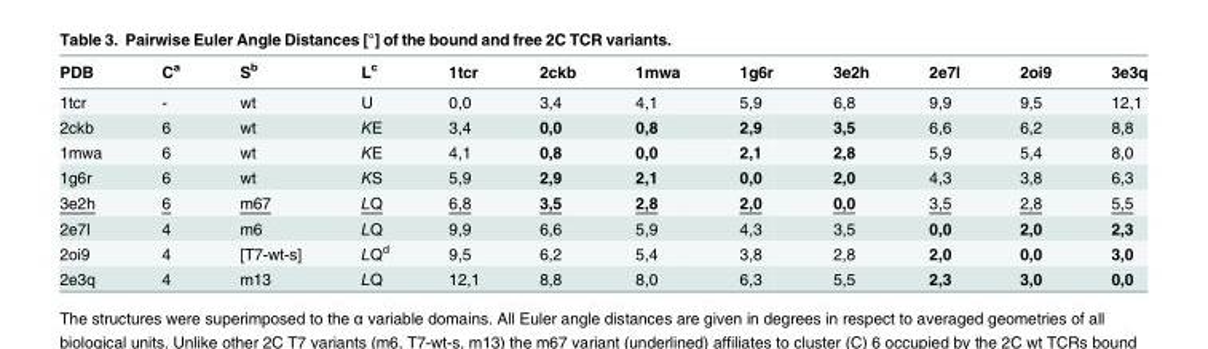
<table><thead><tr><td>PDB</td><td>C<sup>a</sup></td><td>S<sup>b</sup></td><td>L<sup>c</sup></td><td>1tcr</td><td>2ckb</td><td>1mwa</td><td>1g6r</td><td>3e2h</td><td>2e7l</td><td>2oi9</td><td>3e3q</td></tr></thead><tbody><tr><td>1tcr</td><td>-</td><td>wt</td><td>U</td><td>0,0</td><td>3,4</td><td>4,1</td><td>5,9</td><td>6,8</td><td>9,9</td><td>9,5</td><td>12,1</td></tr><tr><td>2ckb</td><td>6</td><td>wt</td><td>KE</td><td>3,4</td><td>0,0</td><td>0,8</td><td>2,9</td><td>3,5</td><td>6,6</td><td>6,2</td><td>8,8</td></tr><tr><td>1mwa</td><td>6</td><td>wt</td><td>KE</td><td>4,1</td><td>0,8</td><td>0,0</td><td>2,1</td><td>2,8</td><td>5,9</td><td>5,4</td><td>8,0</td></tr><tr><td>1g6r</td><td>6</td><td>wt</td><td>KS</td><td>5,9</td><td>2,9</td><td>2,1</td><td>0,0</td><td>2,0</td><td>4,3</td><td>3,8</td><td>6,3</td></tr><tr><td>3e2h</td><td>6</td><td>m67</td><td>LQ</td><td>6,8</td><td>3,5</td><td>2,8</td><td>2,0</td><td>0,0</td><td>3,5</td><td>2,8</td><td>5,5</td></tr><tr><td>2e7l</td><td>4</td><td>m6</td><td>LQ</td><td>9,9</td><td>6,6</td><td>5,9</td><td>4,3</td><td>3,5</td><td>0,0</td><td>2,0</td><td>2,3</td></tr><tr><td>2oi9</td><td>4</td><td>[T7-wt-s]</td><td>LQ<sup>d</sup></td><td>9,5</td><td>6,2</td><td>5,4</td><td>3,8</td><td>2,8</td><td>2,0</td><td>0,0</td><td>3,0</td></tr><tr><td>2e3q</td><td>4</td><td>m13</td><td>LQ</td><td>12,1</td><td>8,8</td><td>8,0</td><td>6,3</td><td>5,5</td><td>2,3</td><td>3,0</td><td>0,0</td></tr></tbody></table>